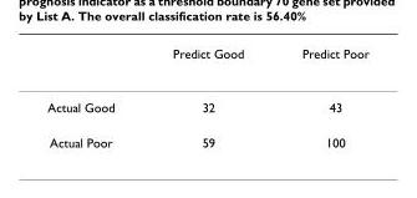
<table><thead><tr><td></td><td>Predict Good</td><td>Predict Poor</td></tr></thead><tbody><tr><td>Actual Good</td><td>32</td><td>43</td></tr><tr><td>Actual Poor</td><td>59</td><td>100</td></tr></tbody></table>